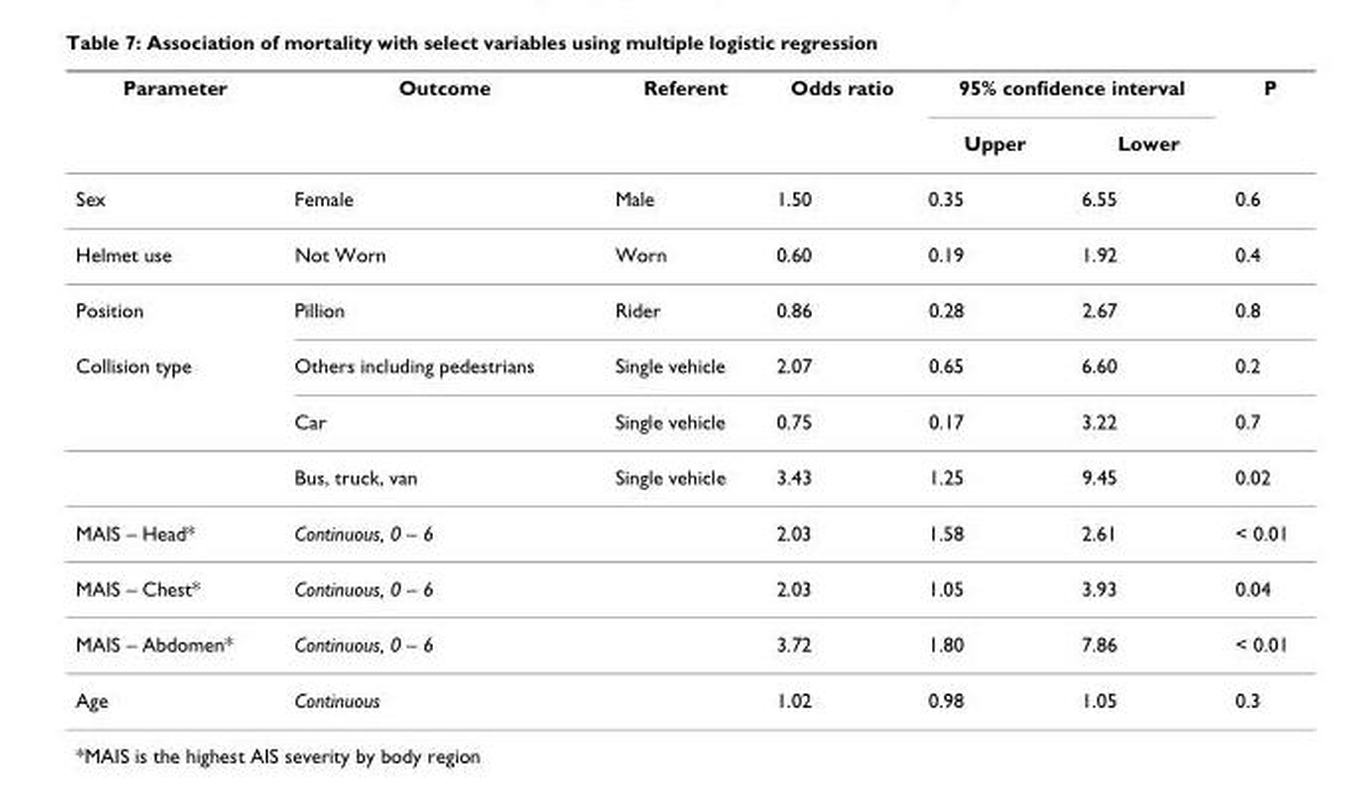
<table><thead><tr><td rowspan="2">Parameter</td><td rowspan="2">Outcome</td><td rowspan="2">Referent</td><td rowspan="2">Odds ratio</td><td colspan="2">95% confidence interval</td><td rowspan="2">P</td></tr><tr><td>Upper</td><td>Lower</td></tr></thead><tbody><tr><td>Sex</td><td>Female</td><td>Male</td><td>1.50</td><td>0.35</td><td>6.55</td><td>0.6</td></tr><tr><td>Helmet use</td><td>Not Worn</td><td>Worn</td><td>0.60</td><td>0.19</td><td>1.92</td><td>0.4</td></tr><tr><td>Position</td><td>Pillion</td><td>Rider</td><td>0.86</td><td>0.28</td><td>2.67</td><td>0.8</td></tr><tr><td rowspan="3">Collision type</td><td>Others including pedestrians</td><td>Single vehicle</td><td>2.07</td><td>0.65</td><td>6.60</td><td>0.2</td></tr><tr><td>Car</td><td>Single vehicle</td><td>0.75</td><td>0.17</td><td>3.22</td><td>0.7</td></tr><tr><td>Bus, truck, van</td><td>Single vehicle</td><td>3.43</td><td>1.25</td><td>9.45</td><td>0.02</td></tr><tr><td>MAIS – Head*</td><td colspan="2">Continuous, 0 – 6</td><td>2.03</td><td>1.58</td><td>2.61</td><td>&lt; 0.01</td></tr><tr><td>MAIS – Chest*</td><td colspan="2">Continuous, 0 – 6</td><td>2.03</td><td>1.05</td><td>3.93</td><td>0.04</td></tr><tr><td>MAIS – Abdomen*</td><td colspan="2">Continuous, 0 – 6</td><td>3.72</td><td>1.80</td><td>7.86</td><td>&lt; 0.01</td></tr><tr><td>Age</td><td colspan="2">Continuous</td><td>1.02</td><td>0.98</td><td>1.05</td><td>0.3</td></tr></tbody></table>